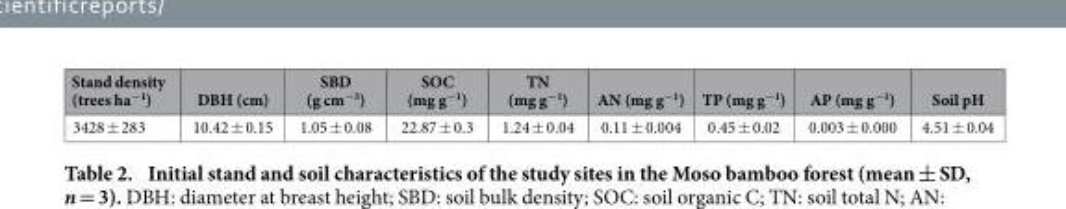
<table><thead><tr><td>Stand density (trees ha<sup>−1</sup>)</td><td>DBH (cm)</td><td>SBD (g cm<sup>−3</sup>)</td><td>SOC (mg g<sup>−1</sup>)</td><td>TN (mg g<sup>−1</sup>)</td><td>AN (mg g<sup>−1</sup>)</td><td>TP (mg g<sup>−1</sup>)</td><td>AP (mg g<sup>−1</sup>)</td><td>Soil pH</td></tr></thead><tbody><tr><td>3428 ± 283</td><td>10.42 ± 0.15</td><td>1.05 ± 0.08</td><td>22.87 ± 0.3</td><td>1.24 ± 0.04</td><td>0.11 ± 0.004</td><td>0.45 ± 0.02</td><td>0.003 ± 0.000</td><td>4.51 ± 0.04</td></tr></tbody></table>